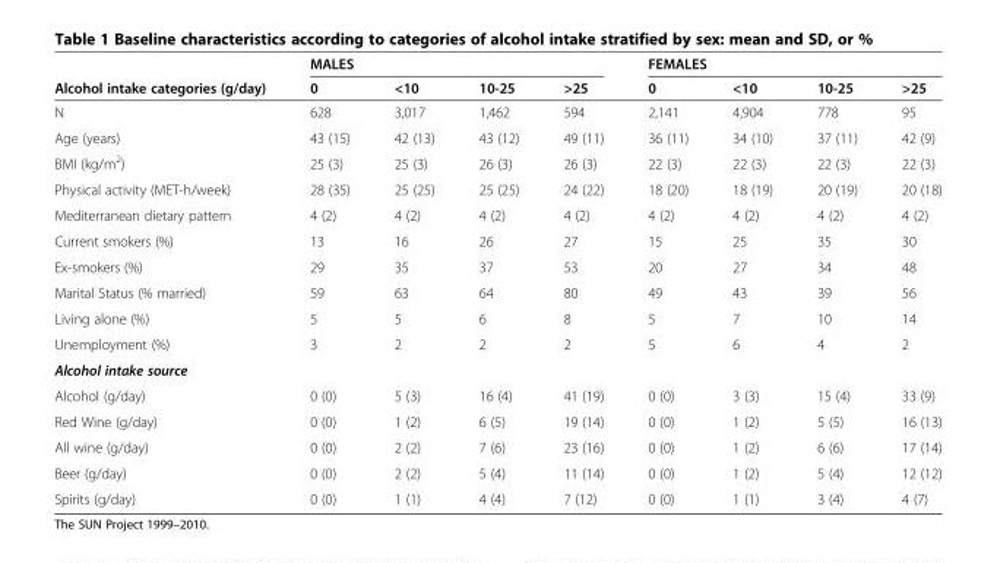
<table><thead><tr><td rowspan="2">Alcohol intake categories (g/day)</td><td colspan="4">MALES</td><td colspan="4">FEMALES</td></tr><tr><td>0</td><td>&lt;10</td><td>10-25</td><td>&gt;25</td><td>0</td><td>&lt;10</td><td>10-25</td><td>&gt;25</td></tr></thead><tbody><tr><td>N</td><td>628</td><td>3,017</td><td>1,462</td><td>594</td><td>2,141</td><td>4,904</td><td>778</td><td>95</td></tr><tr><td>Age (years)</td><td>43 (15)</td><td>42 (13)</td><td>43 (12)</td><td>49 (11)</td><td>36 (11)</td><td>34 (10)</td><td>37 (11)</td><td>42 (9)</td></tr><tr><td>BMI (kg/m<sup>2</sup>)</td><td>25 (3)</td><td>25 (3)</td><td>26 (3)</td><td>26 (3)</td><td>22 (3)</td><td>22 (3)</td><td>22 (3)</td><td>22 (3)</td></tr><tr><td>Physical activity (MET-h/week)</td><td>28 (35)</td><td>25 (25)</td><td>25 (25)</td><td>24 (22)</td><td>18 (20)</td><td>18 (19)</td><td>20 (19)</td><td>20 (18)</td></tr><tr><td>Mediterranean dietary pattern</td><td>4 (2)</td><td>4 (2)</td><td>4 (2)</td><td>4 (2)</td><td>4 (2)</td><td>4 (2)</td><td>4 (2)</td><td>4 (2)</td></tr><tr><td>Current smokers (%)</td><td>13</td><td>16</td><td>26</td><td>27</td><td>15</td><td>25</td><td>35</td><td>30</td></tr><tr><td>Ex-smokers (%)</td><td>29</td><td>35</td><td>37</td><td>53</td><td>20</td><td>27</td><td>34</td><td>48</td></tr><tr><td>Marital Status (% married)</td><td>59</td><td>63</td><td>64</td><td>80</td><td>49</td><td>43</td><td>39</td><td>56</td></tr><tr><td>Living alone (%)</td><td>5</td><td>5</td><td>6</td><td>8</td><td>5</td><td>7</td><td>10</td><td>14</td></tr><tr><td>Unemployment (%)</td><td>3</td><td>2</td><td>2</td><td>2</td><td>5</td><td>6</td><td>4</td><td>2</td></tr><tr><td colspan="9">Alcohol intake source</td></tr><tr><td>Alcohol (g/day)</td><td>0 (0)</td><td>5 (3)</td><td>16 (4)</td><td>41 (19)</td><td>0 (0)</td><td>3 (3)</td><td>15 (4)</td><td>33 (9)</td></tr><tr><td>Red Wine (g/day)</td><td>0 (0)</td><td>1 (2)</td><td>6 (5)</td><td>19 (14)</td><td>0 (0)</td><td>1 (2)</td><td>5 (5)</td><td>16 (13)</td></tr><tr><td>All wine (g/day)</td><td>0 (0)</td><td>2 (2)</td><td>7 (6)</td><td>23 (16)</td><td>0 (0)</td><td>1 (2)</td><td>6 (6)</td><td>17 (14)</td></tr><tr><td>Beer (g/day)</td><td>0 (0)</td><td>2 (2)</td><td>5 (4)</td><td>11 (14)</td><td>0 (0)</td><td>1 (2)</td><td>5 (4)</td><td>12 (12)</td></tr><tr><td>Spirits (g/day)</td><td>0 (0)</td><td>1 (1)</td><td>4 (4)</td><td>7 (12)</td><td>0 (0)</td><td>1 (1)</td><td>3 (4)</td><td>4 (7)</td></tr></tbody></table>